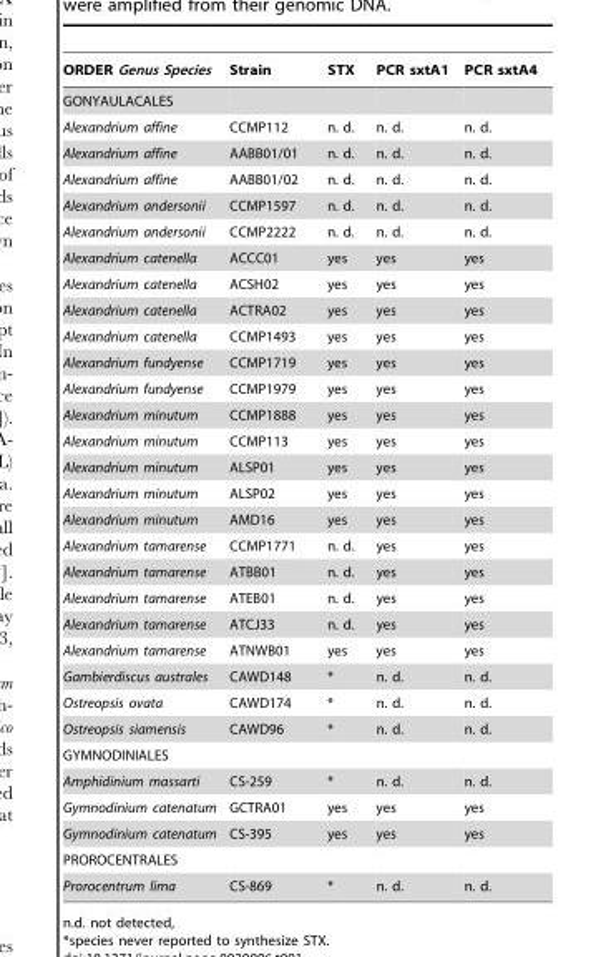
<table><thead><tr><td>ORDER Genus Species</td><td>Strain</td><td>STX</td><td>PCR sxtA1</td><td>PCR sxtA4</td></tr></thead><tbody><tr><td colspan="5">GONYAULACALES</td></tr><tr><td>Alexandrium affine</td><td>CCMP112</td><td>n. d.</td><td>n. d.</td><td>n. d.</td></tr><tr><td>Alexandrium affine</td><td>AABB01/01</td><td>n. d.</td><td>n. d.</td><td>n. d.</td></tr><tr><td>Alexandrium affine</td><td>AABB01/02</td><td>n. d.</td><td>n. d.</td><td>n. d.</td></tr><tr><td>Alexandrium andersonii</td><td>CCMP1597</td><td>n. d.</td><td>n. d.</td><td>n. d.</td></tr><tr><td>Alexandrium andersonii</td><td>CCMP2222</td><td>n. d.</td><td>n. d.</td><td>n. d.</td></tr><tr><td>Alexandrium catenella</td><td>ACCC01</td><td>yes</td><td>yes</td><td>yes</td></tr><tr><td>Alexandrium catenella</td><td>ACSH02</td><td>yes</td><td>yes</td><td>yes</td></tr><tr><td>Alexandrium catenella</td><td>ACTRA02</td><td>yes</td><td>yes</td><td>yes</td></tr><tr><td>Alexandrium catenella</td><td>CCMP1493</td><td>yes</td><td>yes</td><td>yes</td></tr><tr><td>Alexandrium fundyense</td><td>CCMP1719</td><td>yes</td><td>yes</td><td>yes</td></tr><tr><td>Alexandrium fundyense</td><td>CCMP1979</td><td>yes</td><td>yes</td><td>yes</td></tr><tr><td>Alexandrium minutum</td><td>CCMP1888</td><td>yes</td><td>yes</td><td>yes</td></tr><tr><td>Alexandrium minutum</td><td>CCMP113</td><td>yes</td><td>yes</td><td>yes</td></tr><tr><td>Alexandrium minutum</td><td>ALSP01</td><td>yes</td><td>yes</td><td>yes</td></tr><tr><td>Alexandrium minutum</td><td>ALSP02</td><td>yes</td><td>yes</td><td>yes</td></tr><tr><td>Alexandrium minutum</td><td>AMD16</td><td>yes</td><td>yes</td><td>yes</td></tr><tr><td>Alexandrium tamarense</td><td>CCMP1771</td><td>n. d.</td><td>yes</td><td>yes</td></tr><tr><td>Alexandrium tamarense</td><td>ATBB01</td><td>n. d.</td><td>yes</td><td>yes</td></tr><tr><td>Alexandrium tamarense</td><td>ATEB01</td><td>n. d.</td><td>yes</td><td>yes</td></tr><tr><td>Alexandrium tamarense</td><td>ATCJ33</td><td>n. d.</td><td>yes</td><td>yes</td></tr><tr><td>Alexandrium tamarense</td><td>ATNWB01</td><td>yes</td><td>yes</td><td>yes</td></tr><tr><td>Gambierdiscus australes</td><td>CAWD148</td><td>*</td><td>n. d.</td><td>n. d.</td></tr><tr><td>Ostreopsis ovata</td><td>CAWD174</td><td>*</td><td>n. d.</td><td>n. d.</td></tr><tr><td>Ostreopsis siamensis</td><td>CAWD96</td><td>*</td><td>n. d.</td><td>n. d.</td></tr><tr><td colspan="5">GYMNODINIALES</td></tr><tr><td>Amphidinium massarti</td><td>CS-259</td><td>*</td><td>n. d.</td><td>n. d.</td></tr><tr><td>Gymnodinium catenatum</td><td>GCTRA01</td><td>yes</td><td>yes</td><td>yes</td></tr><tr><td>Gymnodinium catenatum</td><td>CS-395</td><td>yes</td><td>yes</td><td>yes</td></tr><tr><td colspan="5">PROROCENTRALES</td></tr><tr><td>Prorocentrum lima</td><td>CS-869</td><td>*</td><td>n. d.</td><td>n. d.</td></tr></tbody></table>